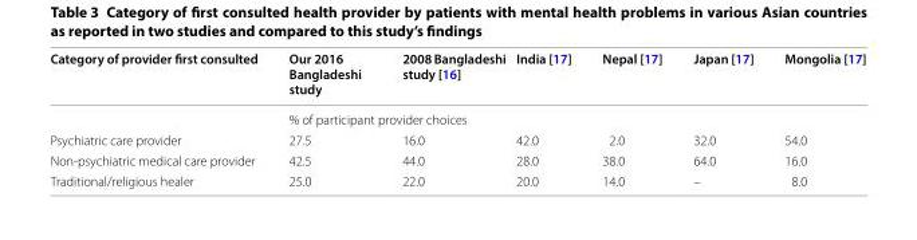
<table><thead><tr><td>Category of provider first consulted</td><td>Our 2016 Bangladeshi study</td><td>2008 Bangladeshi study [16]</td><td>India [17]</td><td>Nepal [17]</td><td>Japan [17]</td><td>Mongolia [17]</td></tr></thead><tbody><tr><td></td><td colspan="6">% of participant provider choices</td></tr><tr><td>Psychiatric care provider</td><td>27.5</td><td>16.0</td><td>42.0</td><td>2.0</td><td>32.0</td><td>54.0</td></tr><tr><td>Non-psychiatric medical care provider</td><td>42.5</td><td>44.0</td><td>28.0</td><td>38.0</td><td>64.0</td><td>16.0</td></tr><tr><td>Traditional/religious healer</td><td>25.0</td><td>22.0</td><td>20.0</td><td>14.0</td><td>–</td><td>8.0</td></tr></tbody></table>